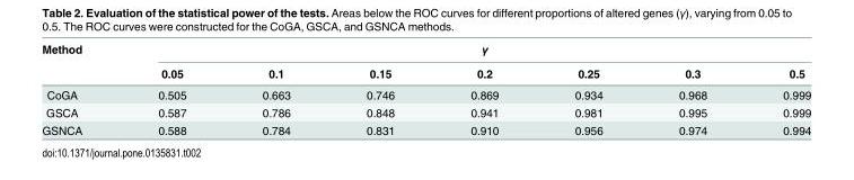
<table><thead><tr><td rowspan="2">Method</td><td colspan="7">γ</td></tr><tr><td>0.05</td><td>0.1</td><td>0.15</td><td>0.2</td><td>0.25</td><td>0.3</td><td>0.5</td></tr></thead><tbody><tr><td>CoGA</td><td>0.505</td><td>0.663</td><td>0.746</td><td>0.869</td><td>0.934</td><td>0.968</td><td>0.999</td></tr><tr><td>GSCA</td><td>0.587</td><td>0.786</td><td>0.848</td><td>0.941</td><td>0.981</td><td>0.995</td><td>0.999</td></tr><tr><td>GSNCA</td><td>0.588</td><td>0.784</td><td>0.831</td><td>0.910</td><td>0.956</td><td>0.974</td><td>0.994</td></tr></tbody></table>